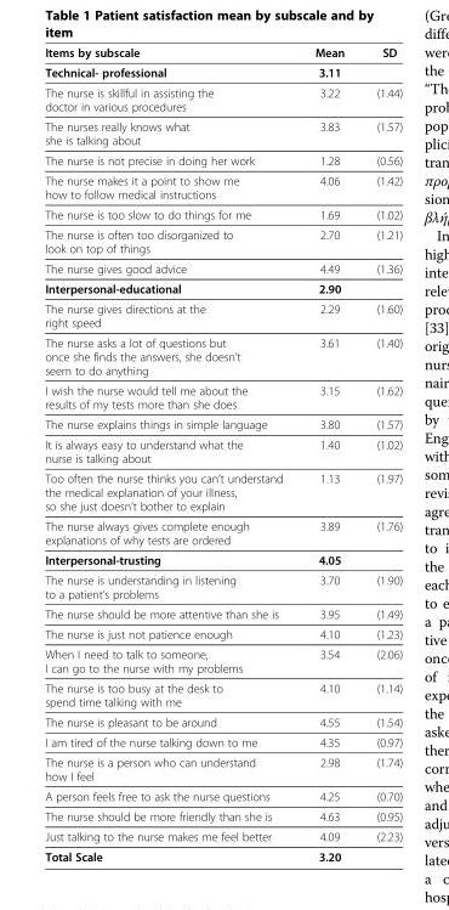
<table><thead><tr><td>Items by subscale</td><td>Mean</td><td>SD</td></tr></thead><tbody><tr><td>Technical- professional</td><td>3.11</td><td></td></tr><tr><td>The nurse is skillful in assisting the doctor in various procedures</td><td>3.22</td><td>(1.44)</td></tr><tr><td>The nurses really knows what she is talking about</td><td>3.83</td><td>(1.57)</td></tr><tr><td>The nurse is not precise in doing her work</td><td>1.28</td><td>(0.56)</td></tr><tr><td>The nurse makes it a point to show me how to follow medical instructions</td><td>4.06</td><td>(1.42)</td></tr><tr><td>The nurse is too slow to do things for me</td><td>1.69</td><td>(1.02)</td></tr><tr><td>The nurse is often too disorganized to look on top of things</td><td>2.70</td><td>(1.21)</td></tr><tr><td>The nurse gives good advice</td><td>4.49</td><td>(1.36)</td></tr><tr><td>Interpersonal-educational</td><td>2.90</td><td></td></tr><tr><td>The nurse gives directions at the right speed</td><td>2.29</td><td>(1.60)</td></tr><tr><td>The nurse asks a lot of questions but once she finds the answers, she doesn’t seem to do anything</td><td>3.61</td><td>(1.40)</td></tr><tr><td>I wish the nurse would tell me about the results of my tests more than she does</td><td>3.15</td><td>(1.62)</td></tr><tr><td>The nurse explains things in simple language</td><td>3.80</td><td>(1.57)</td></tr><tr><td>It is always easy to understand what the nurse is talking about</td><td>1.40</td><td>(1.02)</td></tr><tr><td>Too often the nurse thinks you can’t understand the medical explanation of your illness, so she just doesn’t bother to explain</td><td>1.13</td><td>(1.97)</td></tr><tr><td>The nurse always gives complete enough explanations of why tests are ordered</td><td>3.89</td><td>(1.76)</td></tr><tr><td>Interpersonal-trusting</td><td>4.05</td><td></td></tr><tr><td>The nurse is understanding in listening to a patient’s problems</td><td>3.70</td><td>(1.90)</td></tr><tr><td>The nurse should be more attentive than she is</td><td>3.95</td><td>(1.49)</td></tr><tr><td>The nurse is just not patience enough</td><td>4.10</td><td>(1.23)</td></tr><tr><td>When I need to talk to someone, I can go to the nurse with my problems</td><td>3.54</td><td>(2.06)</td></tr><tr><td>The nurse is too busy at the desk to spend time talking with me</td><td>4.10</td><td>(1.14)</td></tr><tr><td>The nurse is pleasant to be around</td><td>4.55</td><td>(1.54)</td></tr><tr><td>I am tired of the nurse talking down to me</td><td>4.35</td><td>(0.97)</td></tr><tr><td>The nurse is a person who can understand how I feel</td><td>2.98</td><td>(1.74)</td></tr><tr><td>A person feels free to ask the nurse questions</td><td>4.25</td><td>(0.70)</td></tr><tr><td>The nurse should be more friendly than she is</td><td>4.63</td><td>(0.95)</td></tr><tr><td>Just talking to the nurse makes me feel better</td><td>4.09</td><td>(2.23)</td></tr><tr><td>Total Scale</td><td>3.20</td><td></td></tr></tbody></table>